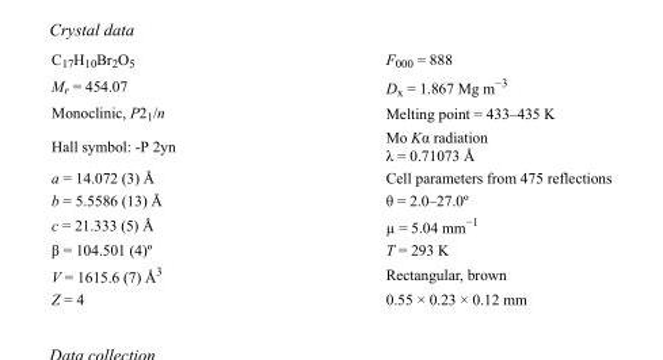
<table><tbody><tr><td>C<sub>17</sub>H<sub>10</sub>Br<sub>2</sub>O<sub>5</sub></td><td>F000 = 888</td></tr><tr><td>M<sub>r</sub> = 454.07</td><td>D<sub>x</sub> = 1.867 Mg m<sup>−3</sup></td></tr><tr><td>Monoclinic, P2<sub>1</sub>/n</td><td>Melting point = 433–435 K</td></tr><tr><td>Hall symbol: -P 2yn</td><td>Mo Kα radiation λ = 0.71073 Å</td></tr><tr><td>a = 14.072 (3) Å</td><td>Cell parameters from 475 reflections</td></tr><tr><td>b = 5.5586 (13) Å</td><td>θ = 2.0–27.0º</td></tr><tr><td>c = 21.333 (5) Å</td><td>µ = 5.04 mm<sup>−1</sup></td></tr><tr><td>β = 104.501 (4)º</td><td>T = 293 K</td></tr><tr><td>V = 1615.6 (7) Å<sup>3</sup></td><td>Rectangular, brown</td></tr><tr><td>Z = 4</td><td>0.55 × 0.23 × 0.12 mm</td></tr></tbody></table>